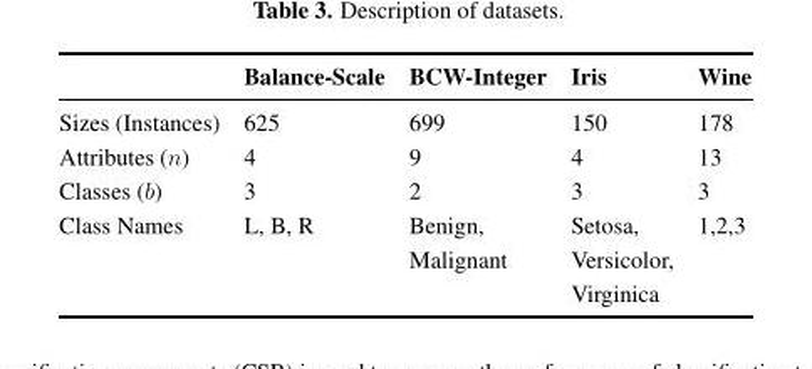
<table><thead><tr><td></td><td>Balance-Scale</td><td>BCW-Integer</td><td>Iris</td><td>Wine</td></tr></thead><tbody><tr><td>Sizes (Instances)</td><td>625</td><td>699</td><td>150</td><td>178</td></tr><tr><td>Attributes (n)</td><td>4</td><td>9</td><td>4</td><td>13</td></tr><tr><td>Classes (b)</td><td>3</td><td>2</td><td>3</td><td>3</td></tr><tr><td>Class Names</td><td>L, B, R</td><td>Benign, Malignant</td><td>Setosa, Versicolor, Virginica</td><td>1,2,3</td></tr></tbody></table>